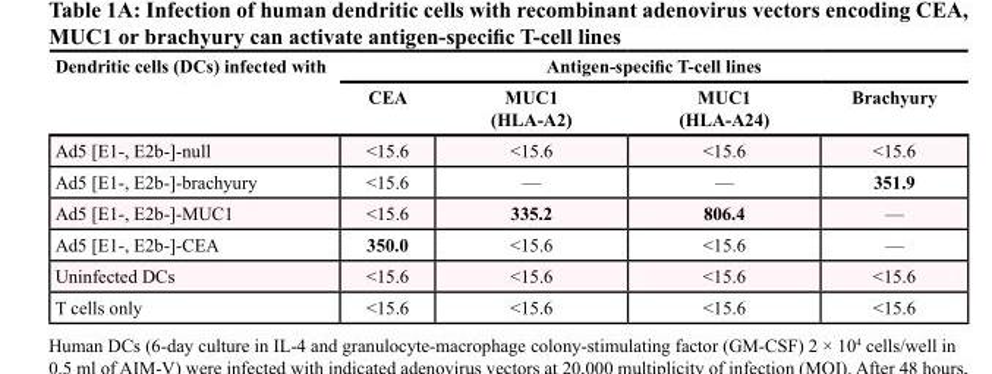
<table><thead><tr><td rowspan="2">Dendritic cells (DCs) infected with</td><td colspan="4">Antigen-specific T-cell lines</td></tr><tr><td>CEA</td><td>MUC1 (HLA-A2)</td><td>MUC1 (HLA-A24)</td><td>Brachyury</td></tr></thead><tbody><tr><td>Ad5 [E1-, E2b-]-null</td><td>&lt;15.6</td><td>&lt;15.6</td><td>&lt;15.6</td><td>&lt;15.6</td></tr><tr><td>Ad5 [E1-, E2b-]-brachyury</td><td>&lt;15.6</td><td>—</td><td>—</td><td>351.9</td></tr><tr><td>Ad5 [E1-, E2b-]-MUC1</td><td>&lt;15.6</td><td>335.2</td><td>806.4</td><td>—</td></tr><tr><td>Ad5 [E1-, E2b-]-CEA</td><td>350.0</td><td>&lt;15.6</td><td>&lt;15.6</td><td>—</td></tr><tr><td>Uninfected DCs</td><td>&lt;15.6</td><td>&lt;15.6</td><td>&lt;15.6</td><td>&lt;15.6</td></tr><tr><td>T cells only</td><td>&lt;15.6</td><td>&lt;15.6</td><td>&lt;15.6</td><td>&lt;15.6</td></tr></tbody></table>